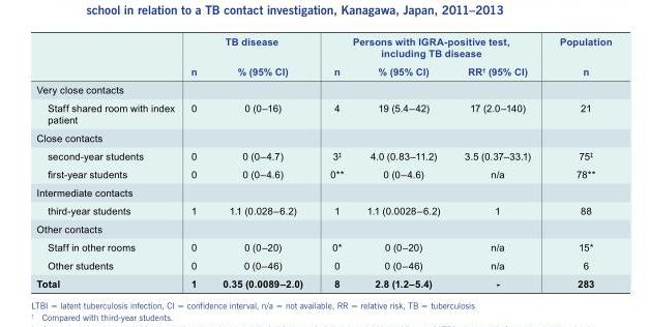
<table><thead><tr><td rowspan="2"></td><td colspan="2">TB disease</td><td colspan="3">Persons with IGRA-positive test, including TB disease</td><td rowspan="2">Population n</td></tr><tr><td>n</td><td>% (95% CI)</td><td>n</td><td>% (95% CI)</td><td>RR<sup>†</sup> (95% CI)</td></tr></thead><tbody><tr><td colspan="7">Very close contacts</td></tr><tr><td>Staff shared room with index patient</td><td>0</td><td>0 (0–16)</td><td>4</td><td>19 (5.4–42)</td><td>17 (2.0–140)</td><td>21</td></tr><tr><td colspan="7">Close contacts</td></tr><tr><td>second-year students</td><td>0</td><td>0 (0–4.7)</td><td>3<sup>‡</sup></td><td>4.0 (0.83–11.2)</td><td>3.5 (0.37–33.1)</td><td>75<sup>‡</sup></td></tr><tr><td>first-year students</td><td>0</td><td>0 (0–4.6)</td><td>0**</td><td>0 (0–4.6)</td><td>n/a</td><td>78**</td></tr><tr><td colspan="7">Intermediate contacts</td></tr><tr><td>third-year students</td><td>1</td><td>1.1 (0.028–6.2)</td><td>1</td><td>1.1 (0.0028–6.2)</td><td>1</td><td>88</td></tr><tr><td colspan="7">Other contacts</td></tr><tr><td>Staff in other rooms</td><td>0</td><td>0 (0–20)</td><td>0*</td><td>0 (0–20)</td><td>n/a</td><td>15*</td></tr><tr><td>Other students</td><td>0</td><td>0 (0–46)</td><td>0</td><td>0 (0–46)</td><td>n/a</td><td>6</td></tr><tr><td>Total</td><td>1</td><td>0.35 (0.0089–2.0)</td><td>8</td><td>2.8 (1.2–5.4)</td><td>-</td><td>283</td></tr></tbody></table>